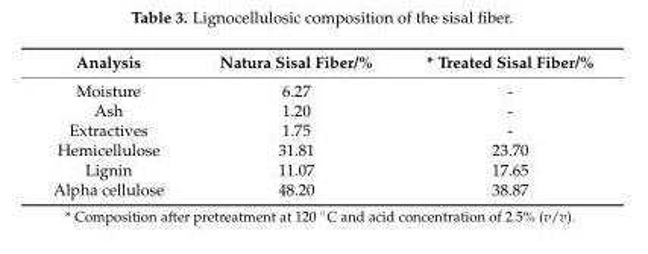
<table><thead><tr><td>Analysis</td><td>Natura Sisal Fiber/%</td><td>* Treated Sisal Fiber/%</td></tr></thead><tbody><tr><td>Moisture</td><td>6.27</td><td>-</td></tr><tr><td>Ash</td><td>1.20</td><td>-</td></tr><tr><td>Extractives</td><td>1.75</td><td>-</td></tr><tr><td>Hemicellulose</td><td>31.81</td><td>23.70</td></tr><tr><td>Lignin</td><td>11.07</td><td>17.65</td></tr><tr><td>Alpha cellulose</td><td>48.20</td><td>38.87</td></tr></tbody></table>